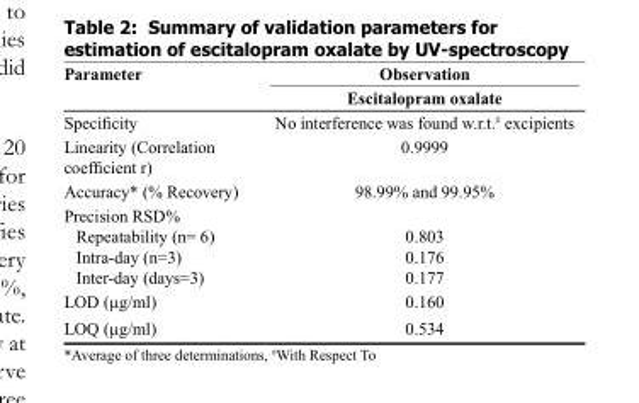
<table><thead><tr><td rowspan="2">Parameter</td><td rowspan="2">Observation Escitalopram oxalate</td></tr><tr></tr></thead><tbody><tr><td>Specificity</td><td>No interference was found w.r.t.# excipients</td></tr><tr><td>Linearity (Correlation coefficient r)</td><td>0.9999</td></tr><tr><td>Accuracy* (% Recovery)</td><td>98.99% and 99.95%</td></tr><tr><td colspan="2">Precision RSD%</td></tr><tr><td>Repeatability (n= 6)</td><td>0.803</td></tr><tr><td>Intra-day (n=3)</td><td>0.176</td></tr><tr><td>Inter-day (days=3)</td><td>0.177</td></tr><tr><td>LOD (µg/ml)</td><td>0.160</td></tr><tr><td>LOQ (µg/ml)</td><td>0.534</td></tr></tbody></table>